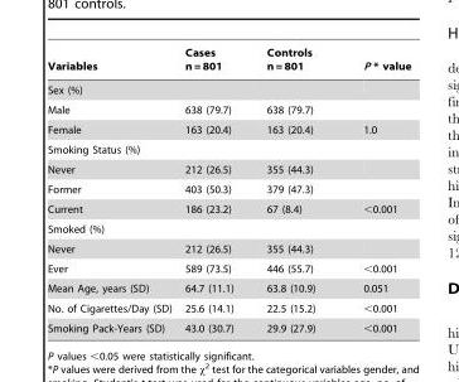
<table><thead><tr><td>Variables</td><td>Cases n = 801</td><td>Controls n = 801</td><td>P * value</td></tr></thead><tbody><tr><td colspan="4">Sex (%)</td></tr><tr><td>Male</td><td>638 (79.7)</td><td>638 (79.7)</td><td></td></tr><tr><td>Female</td><td>163 (20.4)</td><td>163 (20.4)</td><td>1.0</td></tr><tr><td colspan="4">Smoking Status (%)</td></tr><tr><td>Never</td><td>212 (26.5)</td><td>355 (44.3)</td><td></td></tr><tr><td>Former</td><td>403 (50.3)</td><td>379 (47.3)</td><td></td></tr><tr><td>Current</td><td>186 (23.2)</td><td>67 (8.4)</td><td>&lt;0.001</td></tr><tr><td colspan="4">Smoked (%)</td></tr><tr><td>Never</td><td>212 (26.5)</td><td>355 (44.3)</td><td></td></tr><tr><td>Ever</td><td>589 (73.5)</td><td>446 (55.7)</td><td>&lt;0.001</td></tr><tr><td>Mean Age, years (SD)</td><td>64.7 (11.1)</td><td>63.8 (10.9)</td><td>0.051</td></tr><tr><td>No. of Cigarettes/Day (SD)</td><td>25.6 (14.1)</td><td>22.5 (15.2)</td><td>&lt;0.001</td></tr><tr><td>Smoking Pack-Years (SD)</td><td>43.0 (30.7)</td><td>29.9 (27.9)</td><td>&lt;0.001</td></tr></tbody></table>